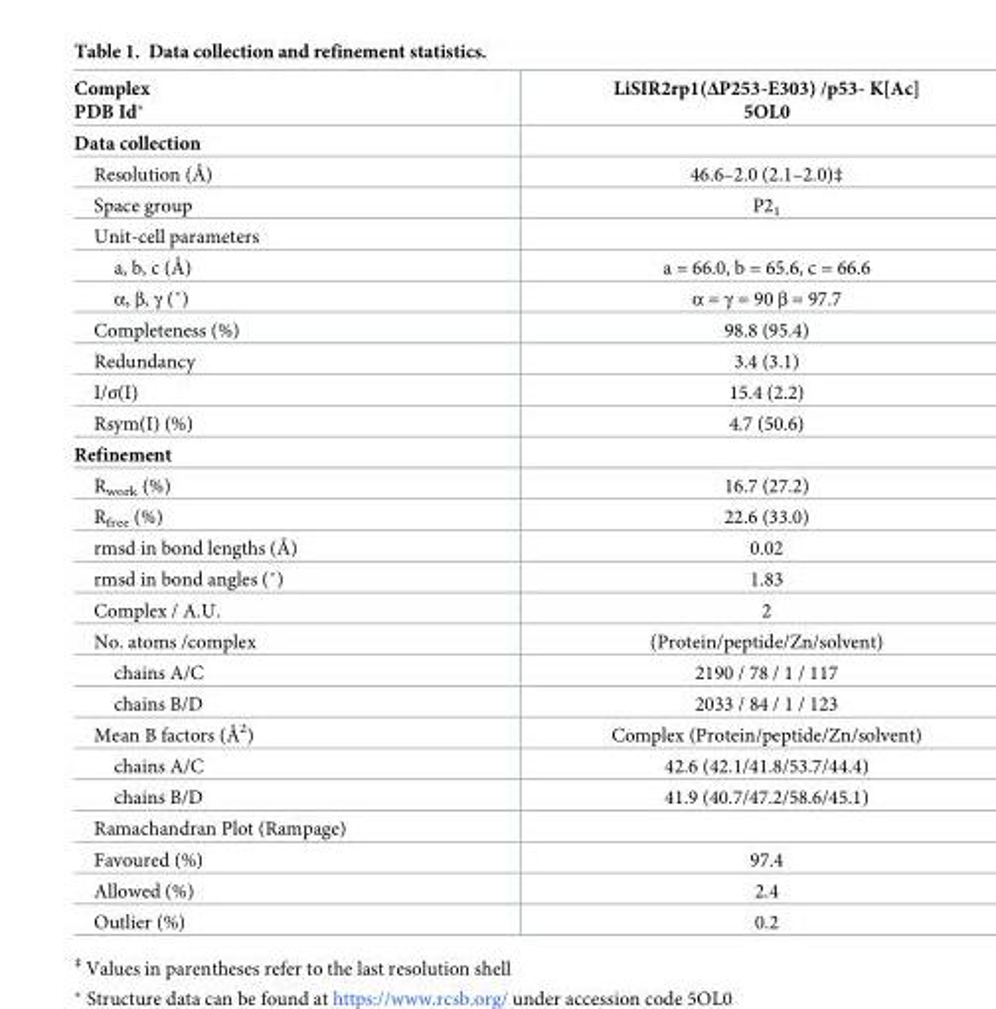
<table><thead><tr><td>Complex PDB Id*</td><td>LiSIR2rp1(ΔP253-E303) /p53- K[Ac] 5OL0</td></tr></thead><tbody><tr><td colspan="2">Data collection</td></tr><tr><td>Resolution (Å)</td><td>46.6–2.0 (2.1–2.0)‡</td></tr><tr><td>Space group</td><td>P2<sub>1</sub></td></tr><tr><td colspan="2">Unit-cell parameters</td></tr><tr><td>a, b, c (Å)</td><td>a = 66.0, b = 65.6, c = 66.6</td></tr><tr><td>α, β, γ (˚)</td><td>α = γ = 90 β = 97.7</td></tr><tr><td>Completeness (%)</td><td>98.8 (95.4)</td></tr><tr><td>Redundancy</td><td>3.4 (3.1)</td></tr><tr><td>I/σ(I)</td><td>15.4 (2.2)</td></tr><tr><td>Rsym(I) (%)</td><td>4.7 (50.6)</td></tr><tr><td colspan="2">Refinement</td></tr><tr><td>R<sub>work</sub> (%)</td><td>16.7 (27.2)</td></tr><tr><td>R<sub>free</sub> (%)</td><td>22.6 (33.0)</td></tr><tr><td>rmsd in bond lengths (Å)</td><td>0.02</td></tr><tr><td>rmsd in bond angles (˚)</td><td>1.83</td></tr><tr><td>Complex / A.U.</td><td>2</td></tr><tr><td>No. atoms /complex</td><td>(Protein/peptide/Zn/solvent)</td></tr><tr><td>chains A/C</td><td>2190 / 78 / 1 / 117</td></tr><tr><td>chains B/D</td><td>2033 / 84 / 1 / 123</td></tr><tr><td>Mean B factors (Å<sup>2</sup>)</td><td>Complex (Protein/peptide/Zn/solvent)</td></tr><tr><td>chains A/C</td><td>42.6 (42.1/41.8/53.7/44.4)</td></tr><tr><td>chains B/D</td><td>41.9 (40.7/47.2/58.6/45.1)</td></tr><tr><td colspan="2">Ramachandran Plot (Rampage)</td></tr><tr><td>Favoured (%)</td><td>97.4</td></tr><tr><td>Allowed (%)</td><td>2.4</td></tr><tr><td>Outlier (%)</td><td>0.2</td></tr></tbody></table>